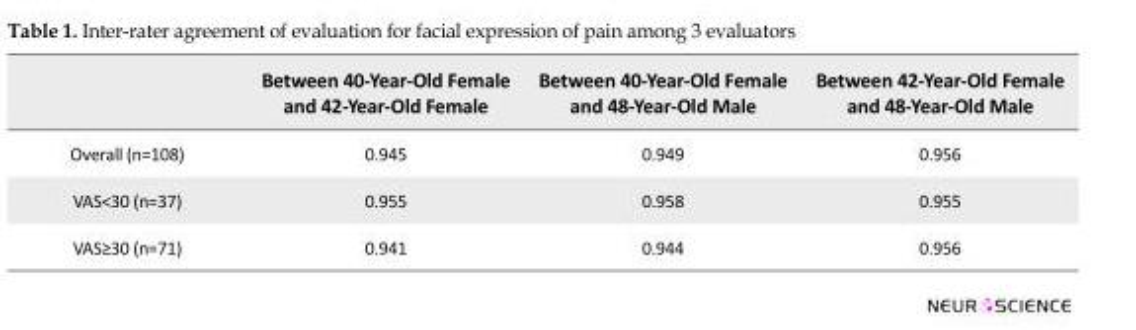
<table><thead><tr><td></td><td>Between 40-Year-Old Female and 42-Year-Old Female</td><td>Between 40-Year-Old Female and 48-Year-Old Male</td><td>Between 42-Year-Old Female and 48-Year-Old Male</td></tr></thead><tbody><tr><td>Overall (n=108)</td><td>0.945</td><td>0.949</td><td>0.956</td></tr><tr><td>VAS&lt;30 (n=37)</td><td>0.955</td><td>0.958</td><td>0.955</td></tr><tr><td>VAS≥30 (n=71)</td><td>0.941</td><td>0.944</td><td>0.956</td></tr></tbody></table>